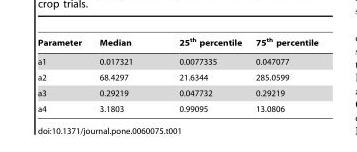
<table><thead><tr><td>Parameter</td><td>Median</td><td>25<sup>th</sup> percentile</td><td>75<sup>th</sup> percentile</td></tr></thead><tbody><tr><td>a1</td><td>0.017321</td><td>0.0077335</td><td>0.047077</td></tr><tr><td>a2</td><td>68.4297</td><td>21.6344</td><td>285.0599</td></tr><tr><td>a3</td><td>0.29219</td><td>0.047732</td><td>0.29219</td></tr><tr><td>a4</td><td>3.1803</td><td>0.99095</td><td>13.0806</td></tr></tbody></table>